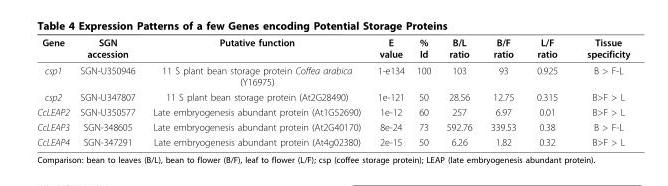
<table><thead><tr><td>Gene</td><td>SGN accession</td><td>Putative function</td><td>E value</td><td>% Id</td><td>B/L ratio</td><td>B/F ratio</td><td>L/F ratio</td><td>Tissue specificity</td></tr></thead><tbody><tr><td>csp1</td><td>SGN-U350946</td><td>11 S plant bean storage protein Coffea arabica (Y16975)</td><td>1-e134</td><td>100</td><td>103</td><td>93</td><td>0.925</td><td>B &gt; F-L</td></tr><tr><td>csp2</td><td>SGN-U347807</td><td>11 S plant bean storage protein (At2G28490)</td><td>1e-121</td><td>50</td><td>28.56</td><td>12.75</td><td>0.315</td><td>B&gt;F &gt; L</td></tr><tr><td>CcLEAP2</td><td>SGN-U350577</td><td>Late embryogenesis abundant protein (At1G52690)</td><td>1e-12</td><td>60</td><td>257</td><td>6.97</td><td>0.01</td><td>B&gt;F &gt; L</td></tr><tr><td>CcLEAP3</td><td>SGN-348605</td><td>Late embryogenesis abundant protein (At2G40170)</td><td>8e-24</td><td>73</td><td>592.76</td><td>339.53</td><td>0.38</td><td>B &gt; F-L</td></tr><tr><td>CcLEAP4</td><td>SGN-347291</td><td>Late embryogenesis abundant protein (At4g02380)</td><td>2e-15</td><td>50</td><td>6.26</td><td>1.82</td><td>0.32</td><td>B&gt;F &gt; L</td></tr></tbody></table>